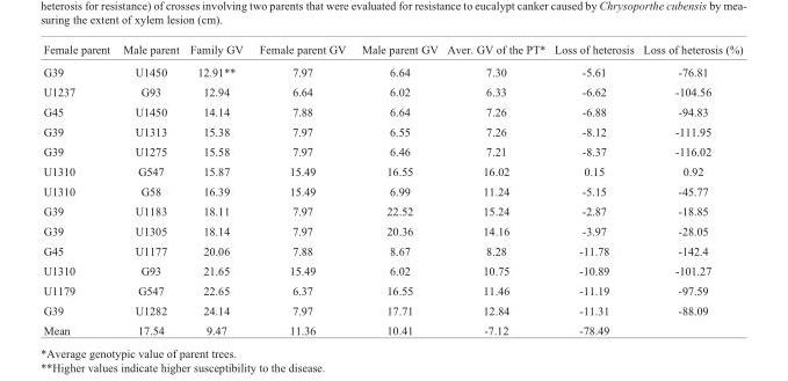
<table><thead><tr><td>Female parent</td><td>Male parent</td><td>Family GV</td><td>Female parent GV</td><td>Male parent GV</td><td>Aver. GV of the PT*</td><td>Loss of heterosis</td><td>Loss of heterosis (%)</td></tr></thead><tbody><tr><td>G39</td><td>U1450</td><td>12.91**</td><td>7.97</td><td>6.64</td><td>7.30</td><td>-5.61</td><td>-76.81</td></tr><tr><td>U1237</td><td>G93</td><td>12.94</td><td>6.64</td><td>6.02</td><td>6.33</td><td>-6.62</td><td>-104.56</td></tr><tr><td>G45</td><td>U1450</td><td>14.14</td><td>7.88</td><td>6.64</td><td>7.26</td><td>-6.88</td><td>-94.83</td></tr><tr><td>G39</td><td>U1313</td><td>15.38</td><td>7.97</td><td>6.55</td><td>7.26</td><td>-8.12</td><td>-111.95</td></tr><tr><td>G39</td><td>U1275</td><td>15.58</td><td>7.97</td><td>6.46</td><td>7.21</td><td>-8.37</td><td>-116.02</td></tr><tr><td>U1310</td><td>G547</td><td>15.87</td><td>15.49</td><td>16.55</td><td>16.02</td><td>0.15</td><td>0.92</td></tr><tr><td>U1310</td><td>G58</td><td>16.39</td><td>15.49</td><td>6.99</td><td>11.24</td><td>-5.15</td><td>-45.77</td></tr><tr><td>G39</td><td>U1183</td><td>18.11</td><td>7.97</td><td>22.52</td><td>15.24</td><td>-2.87</td><td>-18.85</td></tr><tr><td>G39</td><td>U1305</td><td>18.14</td><td>7.97</td><td>20.36</td><td>14.16</td><td>-3.97</td><td>-28.05</td></tr><tr><td>G45</td><td>U1177</td><td>20.06</td><td>7.88</td><td>8.67</td><td>8.28</td><td>-11.78</td><td>-142.4</td></tr><tr><td>U1310</td><td>G93</td><td>21.65</td><td>15.49</td><td>6.02</td><td>10.75</td><td>-10.89</td><td>-101.27</td></tr><tr><td>U1179</td><td>G547</td><td>22.65</td><td>6.37</td><td>16.55</td><td>11.46</td><td>-11.19</td><td>-97.59</td></tr><tr><td>G39</td><td>U1282</td><td>24.14</td><td>7.97</td><td>17.71</td><td>12.84</td><td>-11.31</td><td>-88.09</td></tr><tr><td>Mean</td><td>17.54</td><td>9.47</td><td>11.36</td><td>10.41</td><td>-7.12</td><td>-78.49</td><td></td></tr></tbody></table>